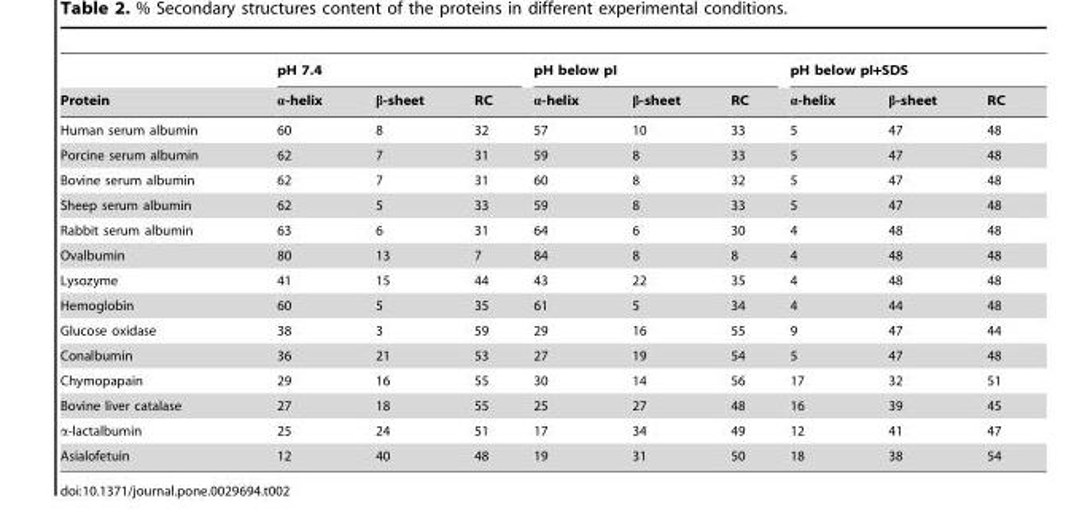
<table><thead><tr><td rowspan="2">Protein</td><td colspan="3">pH 7.4</td><td colspan="3">pH below pI</td><td colspan="3">pH below pI+SDS</td></tr><tr><td>α-helix</td><td>β-sheet</td><td>RC</td><td>α-helix</td><td>β-sheet</td><td>RC</td><td>α-helix</td><td>β-sheet</td><td>RC</td></tr></thead><tbody><tr><td>Human serum albumin</td><td>60</td><td>8</td><td>32</td><td>57</td><td>10</td><td>33</td><td>5</td><td>47</td><td>48</td></tr><tr><td>Porcine serum albumin</td><td>62</td><td>7</td><td>31</td><td>59</td><td>8</td><td>33</td><td>5</td><td>47</td><td>48</td></tr><tr><td>Bovine serum albumin</td><td>62</td><td>7</td><td>31</td><td>60</td><td>8</td><td>32</td><td>5</td><td>47</td><td>48</td></tr><tr><td>Sheep serum albumin</td><td>62</td><td>5</td><td>33</td><td>59</td><td>8</td><td>33</td><td>5</td><td>47</td><td>48</td></tr><tr><td>Rabbit serum albumin</td><td>63</td><td>6</td><td>31</td><td>64</td><td>6</td><td>30</td><td>4</td><td>48</td><td>48</td></tr><tr><td>Ovalbumin</td><td>80</td><td>13</td><td>7</td><td>84</td><td>8</td><td>8</td><td>4</td><td>48</td><td>48</td></tr><tr><td>Lysozyme</td><td>41</td><td>15</td><td>44</td><td>43</td><td>22</td><td>35</td><td>4</td><td>48</td><td>48</td></tr><tr><td>Hemoglobin</td><td>60</td><td>5</td><td>35</td><td>61</td><td>5</td><td>34</td><td>4</td><td>44</td><td>48</td></tr><tr><td>Glucose oxidase</td><td>38</td><td>3</td><td>59</td><td>29</td><td>16</td><td>55</td><td>9</td><td>47</td><td>44</td></tr><tr><td>Conalbumin</td><td>36</td><td>21</td><td>53</td><td>27</td><td>19</td><td>54</td><td>5</td><td>47</td><td>48</td></tr><tr><td>Chymopapain</td><td>29</td><td>16</td><td>55</td><td>30</td><td>14</td><td>56</td><td>17</td><td>32</td><td>51</td></tr><tr><td>Bovine liver catalase</td><td>27</td><td>18</td><td>55</td><td>25</td><td>27</td><td>48</td><td>16</td><td>39</td><td>45</td></tr><tr><td>α-lactalbumin</td><td>25</td><td>24</td><td>51</td><td>17</td><td>34</td><td>49</td><td>12</td><td>41</td><td>47</td></tr><tr><td>Asialofetuin</td><td>12</td><td>40</td><td>48</td><td>19</td><td>31</td><td>50</td><td>18</td><td>38</td><td>54</td></tr></tbody></table>